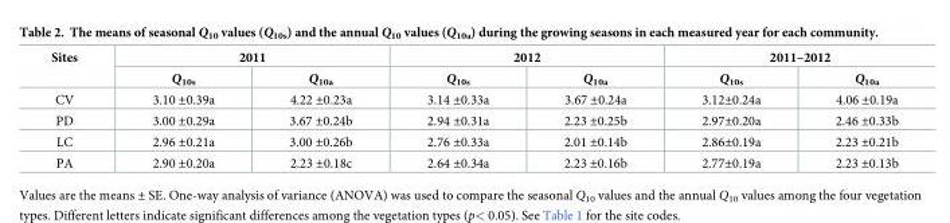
<table><thead><tr><td rowspan="2">Sites</td><td colspan="2">2011</td><td colspan="2">2012</td><td colspan="2">2011–2012</td></tr><tr><td>Q<sub>10s</sub></td><td>Q<sub>10a</sub></td><td>Q<sub>10s</sub></td><td>Q<sub>10a</sub></td><td>Q<sub>10s</sub></td><td>Q<sub>10a</sub></td></tr></thead><tbody><tr><td>CV</td><td>3.10 ±0.39a</td><td>4.22 ±0.23a</td><td>3.14 ±0.33a</td><td>3.67 ±0.24a</td><td>3.12±0.24a</td><td>4.06 ±0.19a</td></tr><tr><td>PD</td><td>3.00 ±0.29a</td><td>3.67 ±0.24b</td><td>2.94 ±0.31a</td><td>2.23 ±0.25b</td><td>2.97±0.20a</td><td>2.46 ±0.33b</td></tr><tr><td>LC</td><td>2.96 ±0.21a</td><td>3.00 ±0.26b</td><td>2.76 ±0.33a</td><td>2.01 ±0.14b</td><td>2.86±0.19a</td><td>2.23 ±0.21b</td></tr><tr><td>PA</td><td>2.90 ±0.20a</td><td>2.23 ±0.18c</td><td>2.64 ±0.34a</td><td>2.23 ±0.16b</td><td>2.77±0.19a</td><td>2.23 ±0.13b</td></tr></tbody></table>